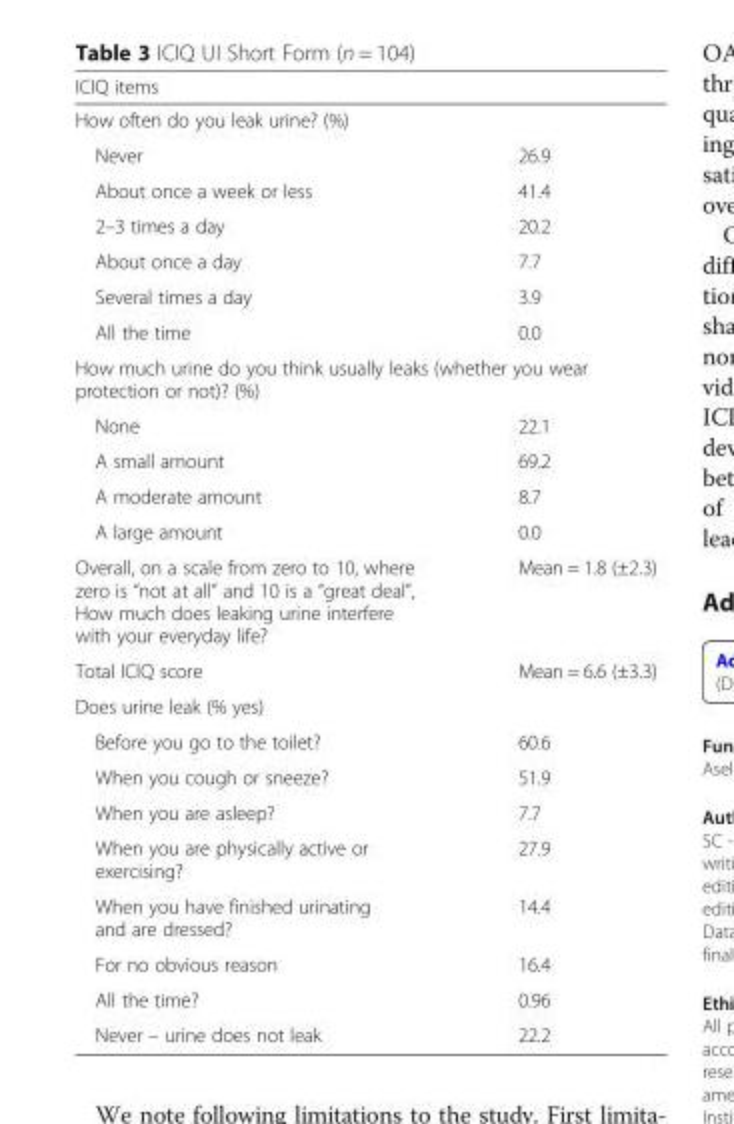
<table><thead><tr><td rowspan="2" colspan="2">ICIQ items How often do you leak urine? (%)</td></tr><tr></tr><tr><td>Never</td><td>26.9</td></tr></thead><tbody><tr><td>About once a week or less</td><td>41.4</td></tr><tr><td>2–3 times a day</td><td>20.2</td></tr><tr><td>About once a day</td><td>7.7</td></tr><tr><td>Several times a day</td><td>3.9</td></tr><tr><td>All the time</td><td>0.0</td></tr><tr><td colspan="2">How much urine do you think usually leaks (whether you wear protection or not)? (%)</td></tr><tr><td>None</td><td>22.1</td></tr><tr><td>A small amount</td><td>69.2</td></tr><tr><td>A moderate amount</td><td>8.7</td></tr><tr><td>A large amount</td><td>0.0</td></tr><tr><td>Overall, on a scale from zero to 10, where zero is “not at all” and 10 is a “great deal”, How much does leaking urine interfere with your everyday life?</td><td>Mean = 1.8 (±2.3)</td></tr><tr><td>Total ICIQ score</td><td>Mean = 6.6 (±3.3)</td></tr><tr><td colspan="2">Does urine leak (% yes)</td></tr><tr><td>Before you go to the toilet?</td><td>60.6</td></tr><tr><td>When you cough or sneeze?</td><td>51.9</td></tr><tr><td>When you are asleep?</td><td>7.7</td></tr><tr><td>When you are physically active or exercising?</td><td>27.9</td></tr><tr><td>When you have finished urinating and are dressed?</td><td>14.4</td></tr><tr><td>For no obvious reason</td><td>16.4</td></tr><tr><td>All the time?</td><td>0.96</td></tr><tr><td>Never – urine does not leak</td><td>22.2</td></tr></tbody></table>